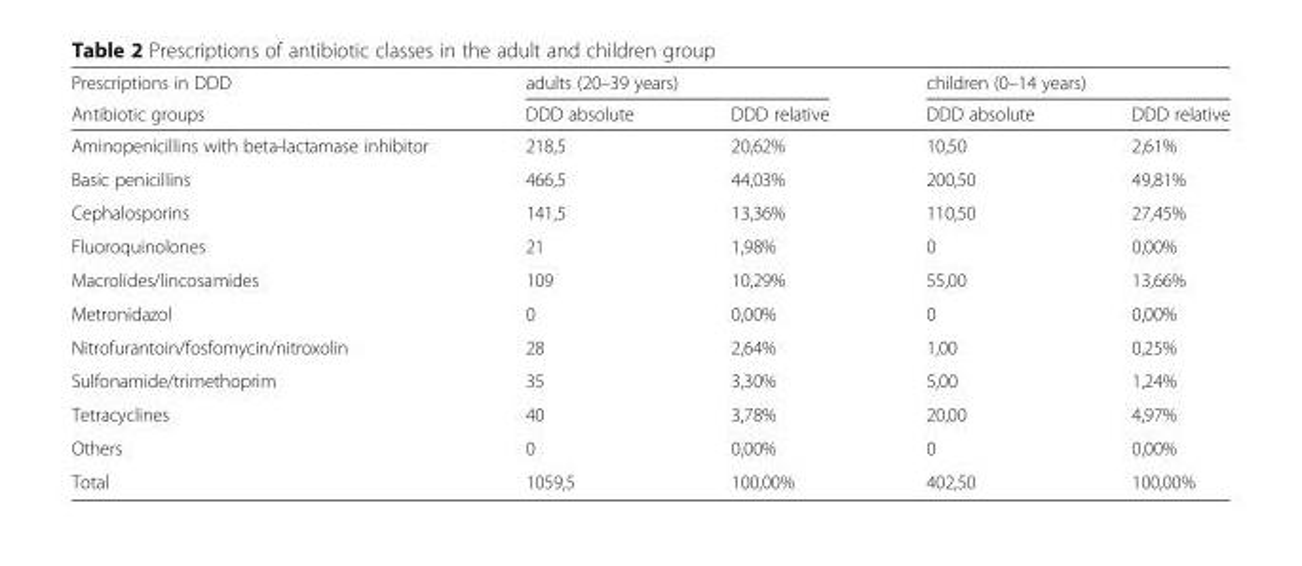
<table><thead><tr><td rowspan="2">Prescriptions in DDD Antibiotic groups</td><td colspan="2">adults (20–39 years)</td><td colspan="2">children (0–14 years)</td></tr><tr><td>DDD absolute</td><td>DDD relative</td><td>DDD absolute</td><td>DDD relative</td></tr></thead><tbody><tr><td>Aminopenicillins with beta-lactamase inhibitor</td><td>218,5</td><td>20,62%</td><td>10,50</td><td>2,61%</td></tr><tr><td>Basic penicillins</td><td>466,5</td><td>44,03%</td><td>200,50</td><td>49,81%</td></tr><tr><td>Cephalosporins</td><td>141,5</td><td>13,36%</td><td>110,50</td><td>27,45%</td></tr><tr><td>Fluoroquinolones</td><td>21</td><td>1,98%</td><td>0</td><td>0,00%</td></tr><tr><td>Macrolides/lincosamides</td><td>109</td><td>10,29%</td><td>55,00</td><td>13,66%</td></tr><tr><td>Metronidazol</td><td>0</td><td>0,00%</td><td>0</td><td>0,00%</td></tr><tr><td>Nitrofurantoin/fosfomycin/nitroxolin</td><td>28</td><td>2,64%</td><td>1,00</td><td>0,25%</td></tr><tr><td>Sulfonamide/trimethoprim</td><td>35</td><td>3,30%</td><td>5,00</td><td>1,24%</td></tr><tr><td>Tetracyclines</td><td>40</td><td>3,78%</td><td>20,00</td><td>4,97%</td></tr><tr><td>Others</td><td>0</td><td>0,00%</td><td>0</td><td>0,00%</td></tr><tr><td>Total</td><td>1059,5</td><td>100,00%</td><td>402,50</td><td>100,00%</td></tr></tbody></table>